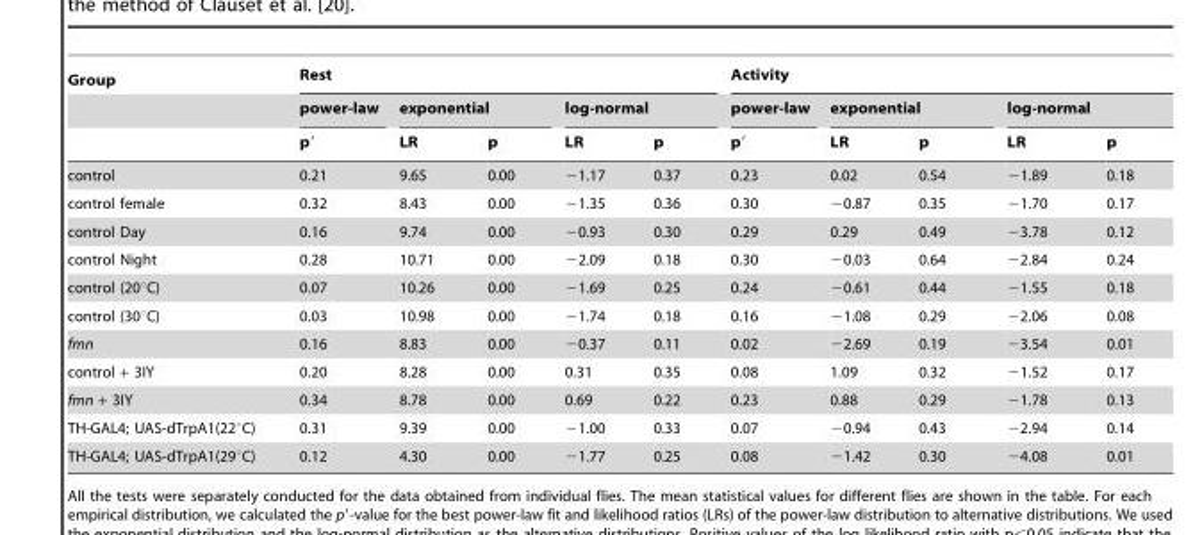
<table><thead><tr><td rowspan="3">Group</td><td colspan="5">Rest</td><td colspan="5">Activity</td></tr><tr><td rowspan="2">power-law p′</td><td colspan="2">exponential</td><td colspan="2">log-normal</td><td rowspan="2">power-law p′</td><td colspan="2">exponential</td><td colspan="2">log-normal</td></tr><tr><td>LR</td><td>p</td><td>LR</td><td>p</td><td>LR</td><td>p</td><td>LR</td><td>p</td></tr></thead><tbody><tr><td>control</td><td>0.21</td><td>9.65</td><td>0.00</td><td>−1.17</td><td>0.37</td><td>0.23</td><td>0.02</td><td>0.54</td><td>−1.89</td><td>0.18</td></tr><tr><td>control female</td><td>0.32</td><td>8.43</td><td>0.00</td><td>−1.35</td><td>0.36</td><td>0.30</td><td>−0.87</td><td>0.35</td><td>−1.70</td><td>0.17</td></tr><tr><td>control Day</td><td>0.16</td><td>9.74</td><td>0.00</td><td>−0.93</td><td>0.30</td><td>0.29</td><td>0.29</td><td>0.49</td><td>−3.78</td><td>0.12</td></tr><tr><td>control Night</td><td>0.28</td><td>10.71</td><td>0.00</td><td>−2.09</td><td>0.18</td><td>0.30</td><td>−0.03</td><td>0.64</td><td>−2.84</td><td>0.24</td></tr><tr><td>control (20°C)</td><td>0.07</td><td>10.26</td><td>0.00</td><td>−1.69</td><td>0.25</td><td>0.24</td><td>−0.61</td><td>0.44</td><td>−1.55</td><td>0.18</td></tr><tr><td>control (30°C)</td><td>0.03</td><td>10.98</td><td>0.00</td><td>−1.74</td><td>0.18</td><td>0.16</td><td>−1.08</td><td>0.29</td><td>−2.06</td><td>0.08</td></tr><tr><td>fmn</td><td>0.16</td><td>8.83</td><td>0.00</td><td>−0.37</td><td>0.11</td><td>0.02</td><td>−2.69</td><td>0.19</td><td>−3.54</td><td>0.01</td></tr><tr><td>control + 3IY</td><td>0.20</td><td>8.28</td><td>0.00</td><td>0.31</td><td>0.35</td><td>0.08</td><td>1.09</td><td>0.32</td><td>−1.52</td><td>0.17</td></tr><tr><td>fmn + 3IY</td><td>0.34</td><td>8.78</td><td>0.00</td><td>0.69</td><td>0.22</td><td>0.23</td><td>0.88</td><td>0.29</td><td>−1.78</td><td>0.13</td></tr><tr><td>TH-GAL4; UAS-dTrpA1(22°C)</td><td>0.31</td><td>9.39</td><td>0.00</td><td>−1.00</td><td>0.33</td><td>0.07</td><td>−0.94</td><td>0.43</td><td>−2.94</td><td>0.14</td></tr><tr><td>TH-GAL4; UAS-dTrpA1(29°C)</td><td>0.12</td><td>4.30</td><td>0.00</td><td>−1.77</td><td>0.25</td><td>0.08</td><td>−1.42</td><td>0.30</td><td>−4.08</td><td>0.01</td></tr></tbody></table>